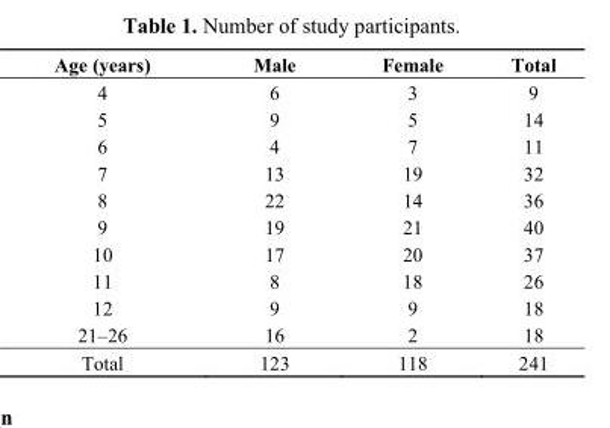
<table><thead><tr><td>Age (years)</td><td>Male</td><td>Female</td><td>Total</td></tr></thead><tbody><tr><td>4</td><td>6</td><td>3</td><td>9</td></tr><tr><td>5</td><td>9</td><td>5</td><td>14</td></tr><tr><td>6</td><td>4</td><td>7</td><td>11</td></tr><tr><td>7</td><td>13</td><td>19</td><td>32</td></tr><tr><td>8</td><td>22</td><td>14</td><td>36</td></tr><tr><td>9</td><td>19</td><td>21</td><td>40</td></tr><tr><td>10</td><td>17</td><td>20</td><td>37</td></tr><tr><td>11</td><td>8</td><td>18</td><td>26</td></tr><tr><td>12</td><td>9</td><td>9</td><td>18</td></tr><tr><td>21–26</td><td>16</td><td>2</td><td>18</td></tr><tr><td>Total</td><td>123</td><td>118</td><td>241</td></tr></tbody></table>